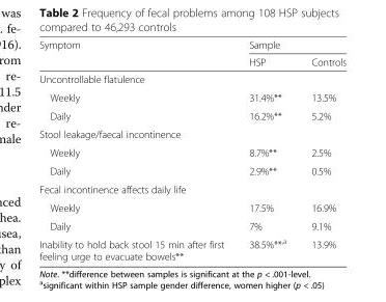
<table><thead><tr><td rowspan="2">Symptom</td><td colspan="2">Sample</td></tr><tr><td>HSP</td><td>Controls</td></tr></thead><tbody><tr><td colspan="3">Uncontrollable flatulence</td></tr><tr><td>Weekly</td><td>31.4%**</td><td>13.5%</td></tr><tr><td>Daily</td><td>16.2%**</td><td>5.2%</td></tr><tr><td colspan="3">Stool leakage/faecal incontinence</td></tr><tr><td>Weekly</td><td>8.7%**</td><td>2.5%</td></tr><tr><td>Daily</td><td>2.9%**</td><td>0.5%</td></tr><tr><td colspan="3">Fecal incontinence affects daily life</td></tr><tr><td>Weekly</td><td>17.5%</td><td>16.9%</td></tr><tr><td>Daily</td><td>7%</td><td>9.1%</td></tr><tr><td>Inability to hold back stool 15 min after first feeling urge to evacuate bowels**</td><td>38.5%**<sup>,a</sup></td><td>13.9%</td></tr></tbody></table>